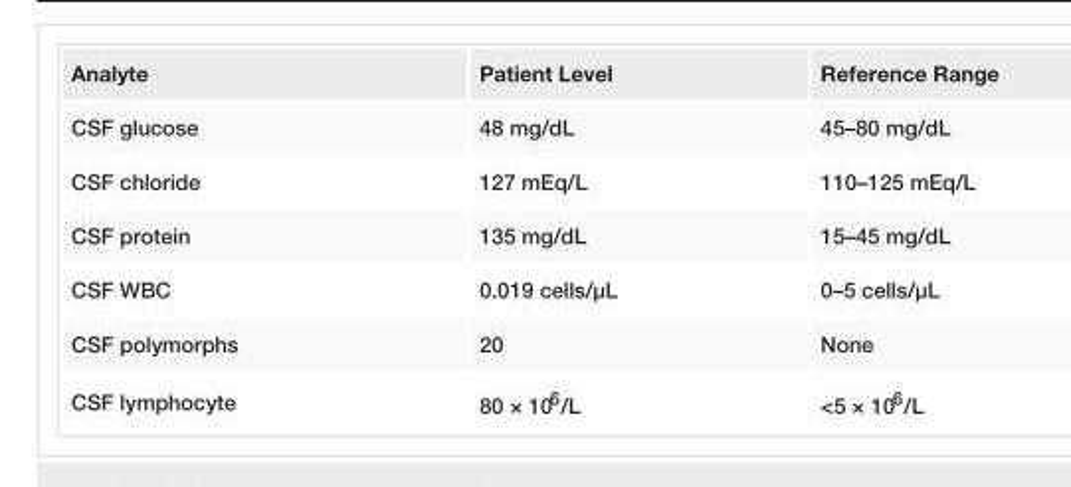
<table><tbody><tr><td>Analyte</td><td>Patient Level</td><td>Reference Range</td></tr><tr><td>CSF glucose</td><td>48 mg/dL</td><td>45–80 mg/dL</td></tr><tr><td>CSF chloride</td><td>127 mEq/L</td><td>110–125 mEq/L</td></tr><tr><td>CSF protein</td><td>135 mg/dL</td><td>15–45 mg/dL</td></tr><tr><td>CSF WBC</td><td>0.019 cells/µL</td><td>0–5 cells/µL</td></tr><tr><td>CSF polymorphs</td><td>20</td><td>None</td></tr><tr><td>CSF lymphocyte</td><td>80 × 10<sup>6</sup>/L</td><td>&lt;5 × 10<sup>6</sup>/L</td></tr></tbody></table>